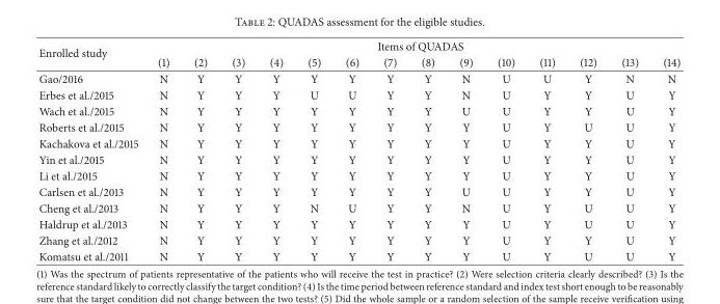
<table><thead><tr><td rowspan="2">Enrolled study</td><td colspan="14">Items of QUADAS</td></tr><tr><td>(1)</td><td>(2)</td><td>(3)</td><td>(4)</td><td>(5)</td><td>(6)</td><td>(7)</td><td>(8)</td><td>(9)</td><td>(10)</td><td>(11)</td><td>(12)</td><td>(13)</td><td>(14)</td></tr></thead><tbody><tr><td>Gao/2016</td><td>N</td><td>Y</td><td>Y</td><td>Y</td><td>Y</td><td>Y</td><td>Y</td><td>Y</td><td>N</td><td>U</td><td>U</td><td>Y</td><td>N</td><td>N</td></tr><tr><td>Erbes et al./2015</td><td>N</td><td>Y</td><td>Y</td><td>Y</td><td>U</td><td>U</td><td>Y</td><td>Y</td><td>N</td><td>U</td><td>Y</td><td>Y</td><td>U</td><td>Y</td></tr><tr><td>Wach et al./2015</td><td>N</td><td>Y</td><td>Y</td><td>Y</td><td>Y</td><td>Y</td><td>Y</td><td>Y</td><td>U</td><td>U</td><td>Y</td><td>Y</td><td>U</td><td>Y</td></tr><tr><td>Roberts et al./2015</td><td>N</td><td>Y</td><td>Y</td><td>Y</td><td>Y</td><td>Y</td><td>Y</td><td>Y</td><td>Y</td><td>U</td><td>Y</td><td>U</td><td>U</td><td>Y</td></tr><tr><td>Kachakova et al./2015</td><td>N</td><td>Y</td><td>Y</td><td>Y</td><td>Y</td><td>Y</td><td>Y</td><td>Y</td><td>Y</td><td>U</td><td>Y</td><td>Y</td><td>U</td><td>Y</td></tr><tr><td>Yin et al./2015</td><td>N</td><td>Y</td><td>Y</td><td>Y</td><td>Y</td><td>Y</td><td>Y</td><td>Y</td><td>Y</td><td>U</td><td>Y</td><td>Y</td><td>U</td><td>Y</td></tr><tr><td>Li et al./2015</td><td>N</td><td>Y</td><td>Y</td><td>Y</td><td>Y</td><td>Y</td><td>Y</td><td>Y</td><td>Y</td><td>U</td><td>Y</td><td>Y</td><td>U</td><td>Y</td></tr><tr><td>Carlsen et al./2013</td><td>N</td><td>Y</td><td>Y</td><td>Y</td><td>Y</td><td>Y</td><td>Y</td><td>Y</td><td>U</td><td>U</td><td>Y</td><td>Y</td><td>U</td><td>Y</td></tr><tr><td>Cheng et al./2013</td><td>N</td><td>Y</td><td>Y</td><td>Y</td><td>N</td><td>U</td><td>Y</td><td>Y</td><td>N</td><td>U</td><td>Y</td><td>U</td><td>U</td><td>Y</td></tr><tr><td>Haldrup et al./2013</td><td>N</td><td>Y</td><td>Y</td><td>Y</td><td>Y</td><td>Y</td><td>Y</td><td>Y</td><td>Y</td><td>U</td><td>Y</td><td>U</td><td>U</td><td>Y</td></tr><tr><td>Zhang et al./2012</td><td>N</td><td>Y</td><td>Y</td><td>Y</td><td>Y</td><td>Y</td><td>Y</td><td>Y</td><td>Y</td><td>U</td><td>Y</td><td>Y</td><td>U</td><td>Y</td></tr><tr><td>Komatsu et al./2011</td><td>N</td><td>Y</td><td>Y</td><td>Y</td><td>Y</td><td>Y</td><td>Y</td><td>Y</td><td>Y</td><td>U</td><td>Y</td><td>U</td><td>U</td><td>Y</td></tr></tbody></table>